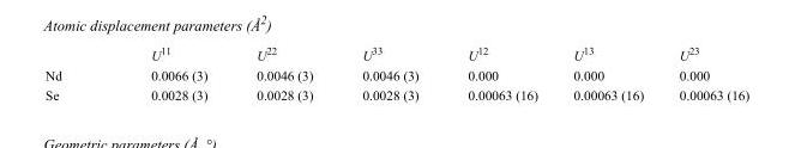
<table><thead><tr><td></td><td>U<sup>11</sup></td><td>U<sup>22</sup></td><td>U<sup>33</sup></td><td>U<sup>12</sup></td><td>U<sup>13</sup></td><td>U<sup>23</sup></td></tr></thead><tbody><tr><td>Nd</td><td>0.0066 (3)</td><td>0.0046 (3)</td><td>0.0046 (3)</td><td>0.000</td><td>0.000</td><td>0.000</td></tr><tr><td>Se</td><td>0.0028 (3)</td><td>0.0028 (3)</td><td>0.0028 (3)</td><td>0.00063 (16)</td><td>0.00063 (16)</td><td>0.00063 (16)</td></tr></tbody></table>